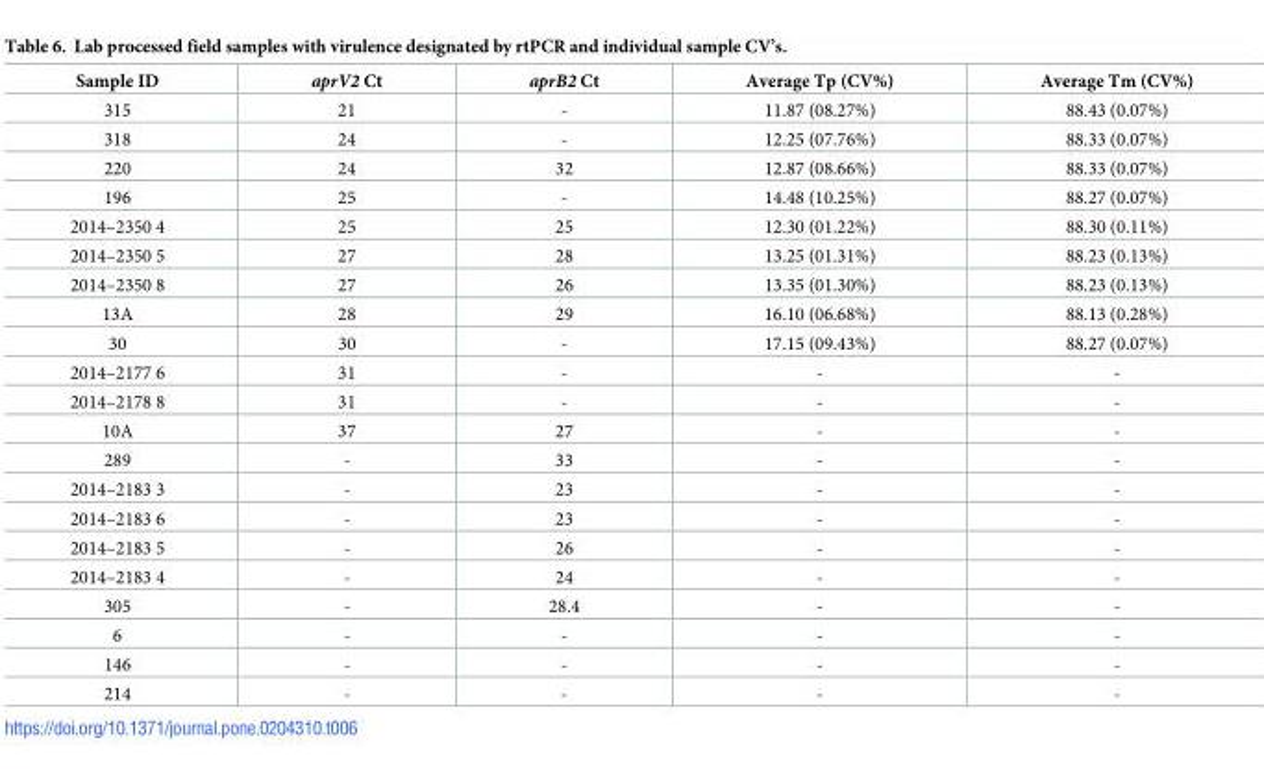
<table><thead><tr><td>Sample ID</td><td>aprV2 Ct</td><td>aprB2 Ct</td><td>Average Tp (CV%)</td><td>Average Tm (CV%)</td></tr></thead><tbody><tr><td>315</td><td>21</td><td>-</td><td>11.87 (08.27%)</td><td>88.43 (0.07%)</td></tr><tr><td>318</td><td>24</td><td>-</td><td>12.25 (07.76%)</td><td>88.33 (0.07%)</td></tr><tr><td>220</td><td>24</td><td>32</td><td>12.87 (08.66%)</td><td>88.33 (0.07%)</td></tr><tr><td>196</td><td>25</td><td>-</td><td>14.48 (10.25%)</td><td>88.27 (0.07%)</td></tr><tr><td>2014–2350 4</td><td>25</td><td>25</td><td>12.30 (01.22%)</td><td>88.30 (0.11%)</td></tr><tr><td>2014–2350 5</td><td>27</td><td>28</td><td>13.25 (01.31%)</td><td>88.23 (0.13%)</td></tr><tr><td>2014–2350 8</td><td>27</td><td>26</td><td>13.35 (01.30%)</td><td>88.23 (0.13%)</td></tr><tr><td>13A</td><td>28</td><td>29</td><td>16.10 (06.68%)</td><td>88.13 (0.28%)</td></tr><tr><td>30</td><td>30</td><td>-</td><td>17.15 (09.43%)</td><td>88.27 (0.07%)</td></tr><tr><td>2014–2177 6</td><td>31</td><td>-</td><td>-</td><td>-</td></tr><tr><td>2014–2178 8</td><td>31</td><td>-</td><td>-</td><td>-</td></tr><tr><td>10A</td><td>37</td><td>27</td><td>-</td><td>-</td></tr><tr><td>289</td><td>-</td><td>33</td><td>-</td><td>-</td></tr><tr><td>2014–2183 3</td><td>-</td><td>23</td><td>-</td><td>-</td></tr><tr><td>2014–2183 6</td><td>-</td><td>23</td><td>-</td><td>-</td></tr><tr><td>2014–2183 5</td><td>-</td><td>26</td><td>-</td><td>-</td></tr><tr><td>2014–2183 4</td><td>-</td><td>24</td><td>-</td><td>-</td></tr><tr><td>305</td><td>-</td><td>28.4</td><td>-</td><td>-</td></tr><tr><td>6</td><td>-</td><td>-</td><td>-</td><td>-</td></tr><tr><td>146</td><td>-</td><td>-</td><td>-</td><td>-</td></tr><tr><td>214</td><td>-</td><td>-</td><td>-</td><td>-</td></tr></tbody></table>